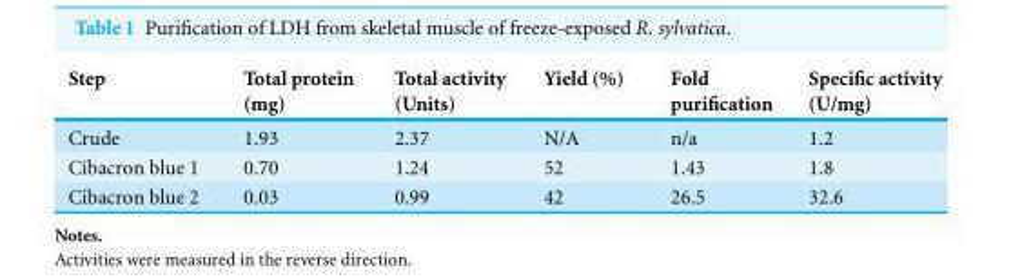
<table><thead><tr><td>Step</td><td>Total protein (mg)</td><td>Total activity (Units)</td><td>Yield (%)</td><td>Fold purification</td><td>Specific activity (U/mg)</td></tr></thead><tbody><tr><td>Crude</td><td>1.93</td><td>2.37</td><td>N/A</td><td>n/a</td><td>1.2</td></tr><tr><td>Cibacron blue 1</td><td>0.70</td><td>1.24</td><td>52</td><td>1.43</td><td>1.8</td></tr><tr><td>Cibacron blue 2</td><td>0.03</td><td>0.99</td><td>42</td><td>26.5</td><td>32.6</td></tr></tbody></table>